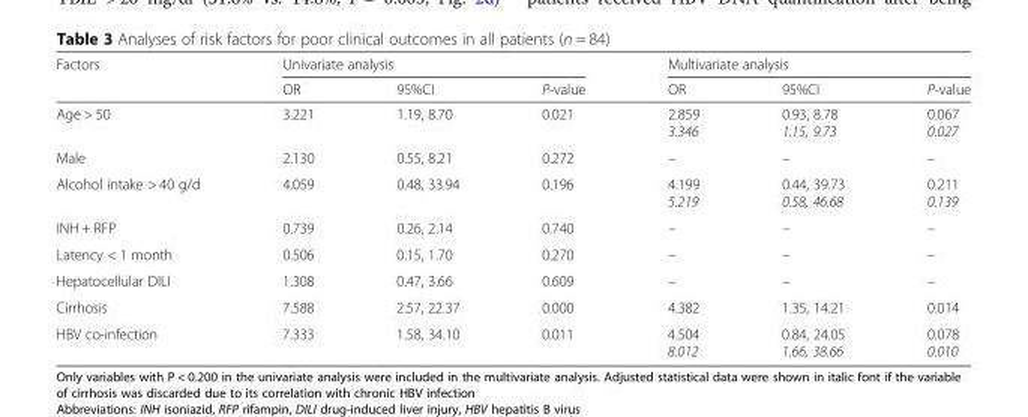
<table><thead><tr><td rowspan="2">Factors</td><td colspan="3">Univariate analysis</td><td colspan="3">Multivariate analysis</td></tr><tr><td>OR</td><td>95%CI</td><td>P-value</td><td>OR</td><td>95%CI</td><td>P-value</td></tr></thead><tbody><tr><td>Age &gt; 50</td><td>3.221</td><td>1.19, 8.70</td><td>0.021</td><td>2.859 3.346</td><td>0.93, 8.78 1.15, 9.73</td><td>0.067 0.027</td></tr><tr><td>Male</td><td>2.130</td><td>0.55, 8.21</td><td>0.272</td><td>–</td><td>–</td><td>–</td></tr><tr><td>Alcohol intake &gt; 40 g/d</td><td>4.059</td><td>0.48, 33.94</td><td>0.196</td><td>4.199 5.219</td><td>0.44, 39.73 0.58, 46.68</td><td>0.211 0.139</td></tr><tr><td>INH + RFP</td><td>0.739</td><td>0.26, 2.14</td><td>0.740</td><td>–</td><td>–</td><td>–</td></tr><tr><td>Latency &lt; 1 month</td><td>0.506</td><td>0.15, 1.70</td><td>0.270</td><td>–</td><td>–</td><td>–</td></tr><tr><td>Hepatocellular DILI</td><td>1.308</td><td>0.47, 3.66</td><td>0.609</td><td>–</td><td>–</td><td>–</td></tr><tr><td>Cirrhosis</td><td>7.588</td><td>2.57, 22.37</td><td>0.000</td><td>4.382</td><td>1.35, 14.21</td><td>0.014</td></tr><tr><td>HBV co-infection</td><td>7.333</td><td>1.58, 34.10</td><td>0.011</td><td>4.504 8.012</td><td>0.84, 24.05 1.66, 38.66</td><td>0.078 0.010</td></tr></tbody></table>